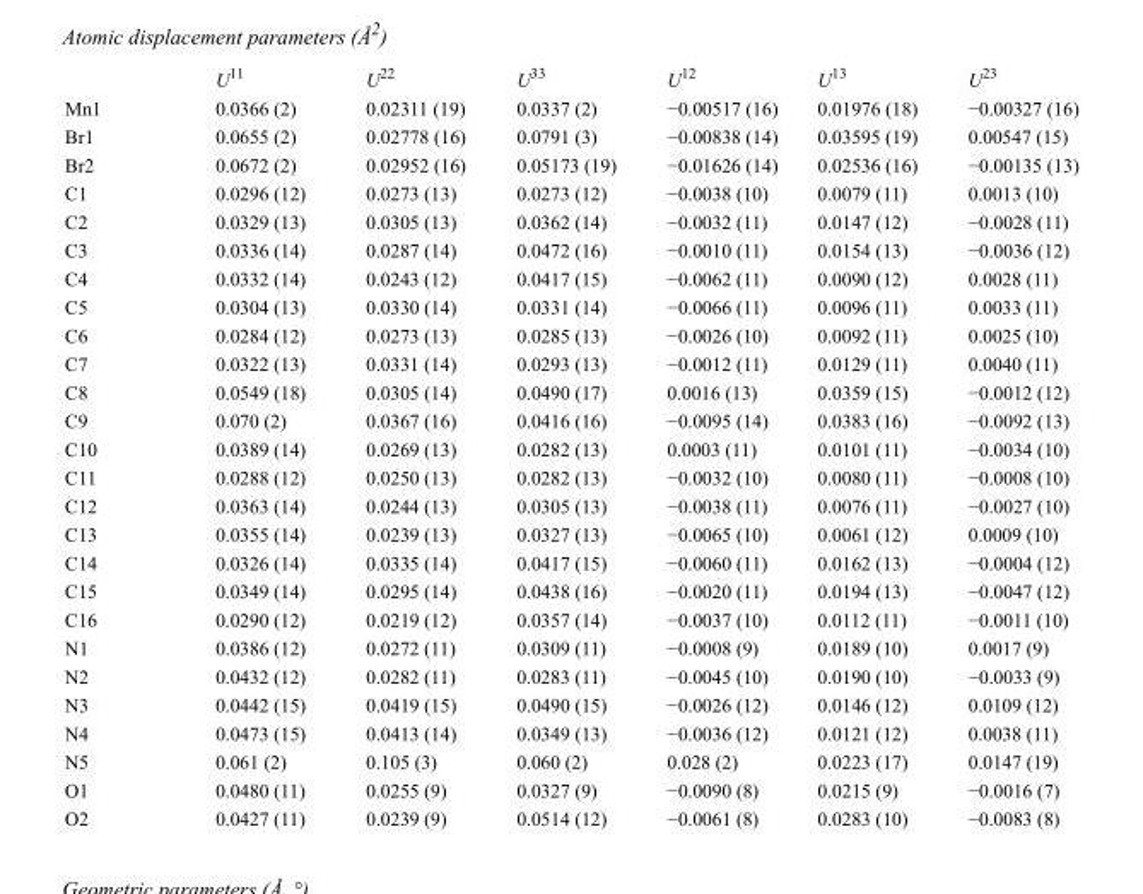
<table><thead><tr><td></td><td>U<sup>11</sup></td><td>U<sup>22</sup></td><td>U<sup>33</sup></td><td>U<sup>12</sup></td><td>U<sup>13</sup></td><td>U<sup>23</sup></td></tr></thead><tbody><tr><td>Mn1</td><td>0.0366 (2)</td><td>0.02311 (19)</td><td>0.0337 (2)</td><td>−0.00517 (16)</td><td>0.01976 (18)</td><td>−0.00327 (16)</td></tr><tr><td>Br1</td><td>0.0655 (2)</td><td>0.02778 (16)</td><td>0.0791 (3)</td><td>−0.00838 (14)</td><td>0.03595 (19)</td><td>0.00547 (15)</td></tr><tr><td>Br2</td><td>0.0672 (2)</td><td>0.02952 (16)</td><td>0.05173 (19)</td><td>−0.01626 (14)</td><td>0.02536 (16)</td><td>−0.00135 (13)</td></tr><tr><td>C1</td><td>0.0296 (12)</td><td>0.0273 (13)</td><td>0.0273 (12)</td><td>−0.0038 (10)</td><td>0.0079 (11)</td><td>0.0013 (10)</td></tr><tr><td>C2</td><td>0.0329 (13)</td><td>0.0305 (13)</td><td>0.0362 (14)</td><td>−0.0032 (11)</td><td>0.0147 (12)</td><td>−0.0028 (11)</td></tr><tr><td>C3</td><td>0.0336 (14)</td><td>0.0287 (14)</td><td>0.0472 (16)</td><td>−0.0010 (11)</td><td>0.0154 (13)</td><td>−0.0036 (12)</td></tr><tr><td>C4</td><td>0.0332 (14)</td><td>0.0243 (12)</td><td>0.0417 (15)</td><td>−0.0062 (11)</td><td>0.0090 (12)</td><td>0.0028 (11)</td></tr><tr><td>C5</td><td>0.0304 (13)</td><td>0.0330 (14)</td><td>0.0331 (14)</td><td>−0.0066 (11)</td><td>0.0096 (11)</td><td>0.0033 (11)</td></tr><tr><td>C6</td><td>0.0284 (12)</td><td>0.0273 (13)</td><td>0.0285 (13)</td><td>−0.0026 (10)</td><td>0.0092 (11)</td><td>0.0025 (10)</td></tr><tr><td>C7</td><td>0.0322 (13)</td><td>0.0331 (14)</td><td>0.0293 (13)</td><td>−0.0012 (11)</td><td>0.0129 (11)</td><td>0.0040 (11)</td></tr><tr><td>C8</td><td>0.0549 (18)</td><td>0.0305 (14)</td><td>0.0490 (17)</td><td>0.0016 (13)</td><td>0.0359 (15)</td><td>−0.0012 (12)</td></tr><tr><td>C9</td><td>0.070 (2)</td><td>0.0367 (16)</td><td>0.0416 (16)</td><td>−0.0095 (14)</td><td>0.0383 (16)</td><td>−0.0092 (13)</td></tr><tr><td>C10</td><td>0.0389 (14)</td><td>0.0269 (13)</td><td>0.0282 (13)</td><td>0.0003 (11)</td><td>0.0101 (11)</td><td>−0.0034 (10)</td></tr><tr><td>C11</td><td>0.0288 (12)</td><td>0.0250 (13)</td><td>0.0282 (13)</td><td>−0.0032 (10)</td><td>0.0080 (11)</td><td>−0.0008 (10)</td></tr><tr><td>C12</td><td>0.0363 (14)</td><td>0.0244 (13)</td><td>0.0305 (13)</td><td>−0.0038 (11)</td><td>0.0076 (11)</td><td>−0.0027 (10)</td></tr><tr><td>C13</td><td>0.0355 (14)</td><td>0.0239 (13)</td><td>0.0327 (13)</td><td>−0.0065 (10)</td><td>0.0061 (12)</td><td>0.0009 (10)</td></tr><tr><td>C14</td><td>0.0326 (14)</td><td>0.0335 (14)</td><td>0.0417 (15)</td><td>−0.0060 (11)</td><td>0.0162 (13)</td><td>−0.0004 (12)</td></tr><tr><td>C15</td><td>0.0349 (14)</td><td>0.0295 (14)</td><td>0.0438 (16)</td><td>−0.0020 (11)</td><td>0.0194 (13)</td><td>−0.0047 (12)</td></tr><tr><td>C16</td><td>0.0290 (12)</td><td>0.0219 (12)</td><td>0.0357 (14)</td><td>−0.0037 (10)</td><td>0.0112 (11)</td><td>−0.0011 (10)</td></tr><tr><td>N1</td><td>0.0386 (12)</td><td>0.0272 (11)</td><td>0.0309 (11)</td><td>−0.0008 (9)</td><td>0.0189 (10)</td><td>0.0017 (9)</td></tr><tr><td>N2</td><td>0.0432 (12)</td><td>0.0282 (11)</td><td>0.0283 (11)</td><td>−0.0045 (10)</td><td>0.0190 (10)</td><td>−0.0033 (9)</td></tr><tr><td>N3</td><td>0.0442 (15)</td><td>0.0419 (15)</td><td>0.0490 (15)</td><td>−0.0026 (12)</td><td>0.0146 (12)</td><td>0.0109 (12)</td></tr><tr><td>N4</td><td>0.0473 (15)</td><td>0.0413 (14)</td><td>0.0349 (13)</td><td>−0.0036 (12)</td><td>0.0121 (12)</td><td>0.0038 (11)</td></tr><tr><td>N5</td><td>0.061 (2)</td><td>0.105 (3)</td><td>0.060 (2)</td><td>0.028 (2)</td><td>0.0223 (17)</td><td>0.0147 (19)</td></tr><tr><td>O1</td><td>0.0480 (11)</td><td>0.0255 (9)</td><td>0.0327 (9)</td><td>−0.0090 (8)</td><td>0.0215 (9)</td><td>−0.0016 (7)</td></tr><tr><td>O2</td><td>0.0427 (11)</td><td>0.0239 (9)</td><td>0.0514 (12)</td><td>−0.0061 (8)</td><td>0.0283 (10)</td><td>−0.0083 (8)</td></tr></tbody></table>